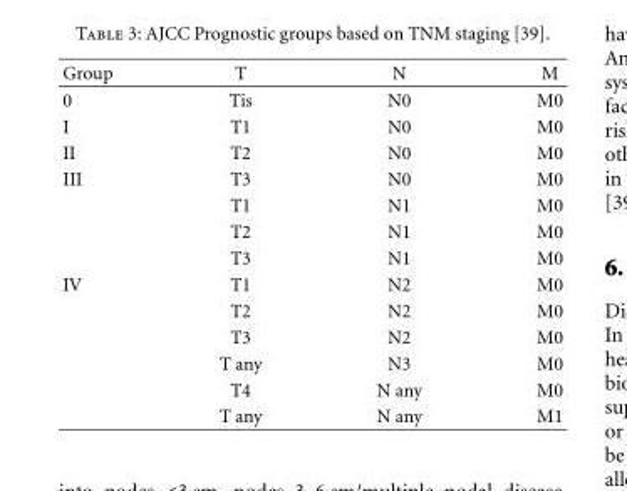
<table><thead><tr><td>Group</td><td>T</td><td>N</td><td>M</td></tr></thead><tbody><tr><td>0</td><td>Tis</td><td>N0</td><td>M0</td></tr><tr><td>I</td><td>T1</td><td>N0</td><td>M0</td></tr><tr><td>II</td><td>T2</td><td>N0</td><td>M0</td></tr><tr><td rowspan="4">III</td><td>T3</td><td>N0</td><td>M0</td></tr><tr><td>T1</td><td>N1</td><td>M0</td></tr><tr><td>T2</td><td>N1</td><td>M0</td></tr><tr><td>T3</td><td>N1</td><td>M0</td></tr><tr><td rowspan="6">IV</td><td>T1</td><td>N2</td><td>M0</td></tr><tr><td>T2</td><td>N2</td><td>M0</td></tr><tr><td>T3</td><td>N2</td><td>M0</td></tr><tr><td>T any</td><td>N3</td><td>M0</td></tr><tr><td>T4</td><td>N any</td><td>M0</td></tr><tr><td>T any</td><td>N any</td><td>M1</td></tr></tbody></table>